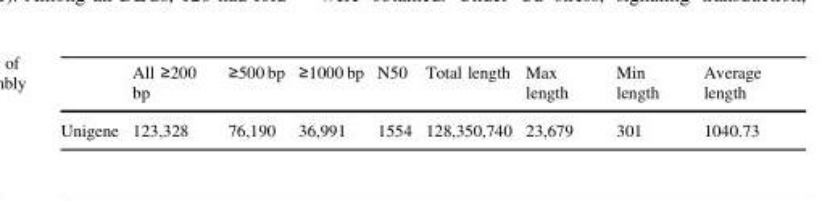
<table><thead><tr><td></td><td>All ≥200 bp</td><td>≥500 bp</td><td>≥1000 bp</td><td>N50</td><td>Total length</td><td>Max length</td><td>Min length</td><td>Average length</td></tr></thead><tbody><tr><td>Unigene</td><td>123,328</td><td>76,190</td><td>36,991</td><td>1554</td><td>128,350,740</td><td>23,679</td><td>301</td><td>1040.73</td></tr></tbody></table>